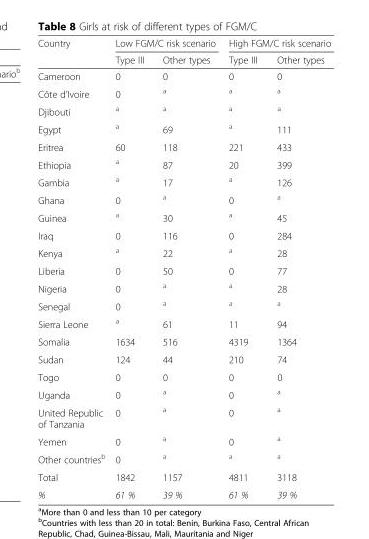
<table><thead><tr><td rowspan="2">Country</td><td colspan="2">Low FGM/C risk scenario</td><td colspan="2">High FGM/C risk scenario</td></tr><tr><td>Type III</td><td>Other types</td><td>Type III</td><td>Other types</td></tr></thead><tbody><tr><td>Cameroon</td><td>0</td><td>0</td><td>0</td><td>0</td></tr><tr><td>Côte d’Ivoire</td><td>0</td><td><sup>a</sup></td><td><sup>a</sup></td><td><sup>a</sup></td></tr><tr><td>Djibouti</td><td><sup>a</sup></td><td><sup>a</sup></td><td><sup>a</sup></td><td><sup>a</sup></td></tr><tr><td>Egypt</td><td><sup>a</sup></td><td>69</td><td><sup>a</sup></td><td>111</td></tr><tr><td>Eritrea</td><td>60</td><td>118</td><td>221</td><td>433</td></tr><tr><td>Ethiopia</td><td><sup>a</sup></td><td>87</td><td>20</td><td>399</td></tr><tr><td>Gambia</td><td><sup>a</sup></td><td>17</td><td><sup>a</sup></td><td>126</td></tr><tr><td>Ghana</td><td>0</td><td><sup>a</sup></td><td>0</td><td><sup>a</sup></td></tr><tr><td>Guinea</td><td><sup>a</sup></td><td>30</td><td><sup>a</sup></td><td>45</td></tr><tr><td>Iraq</td><td>0</td><td>116</td><td>0</td><td>284</td></tr><tr><td>Kenya</td><td><sup>a</sup></td><td>22</td><td><sup>a</sup></td><td>28</td></tr><tr><td>Liberia</td><td>0</td><td>50</td><td>0</td><td>77</td></tr><tr><td>Nigeria</td><td>0</td><td><sup>a</sup></td><td><sup>a</sup></td><td>28</td></tr><tr><td>Senegal</td><td>0</td><td><sup>a</sup></td><td><sup>a</sup></td><td><sup>a</sup></td></tr><tr><td>Sierra Leone</td><td><sup>a</sup></td><td>61</td><td>11</td><td>94</td></tr><tr><td>Somalia</td><td>1634</td><td>516</td><td>4319</td><td>1364</td></tr><tr><td>Sudan</td><td>124</td><td>44</td><td>210</td><td>74</td></tr><tr><td>Togo</td><td>0</td><td>0</td><td>0</td><td>0</td></tr><tr><td>Uganda</td><td>0</td><td><sup>a</sup></td><td>0</td><td><sup>a</sup></td></tr><tr><td>United Republic of Tanzania</td><td>0</td><td><sup>a</sup></td><td>0</td><td><sup>a</sup></td></tr><tr><td>Yemen</td><td>0</td><td><sup>a</sup></td><td>0</td><td><sup>a</sup></td></tr><tr><td>Other countries<sup>b</sup></td><td>0</td><td><sup>a</sup></td><td><sup>a</sup></td><td><sup>a</sup></td></tr><tr><td>Total</td><td>1842</td><td>1157</td><td>4811</td><td>3118</td></tr><tr><td>%</td><td>61 %</td><td>39 %</td><td>61 %</td><td>39 %</td></tr></tbody></table>